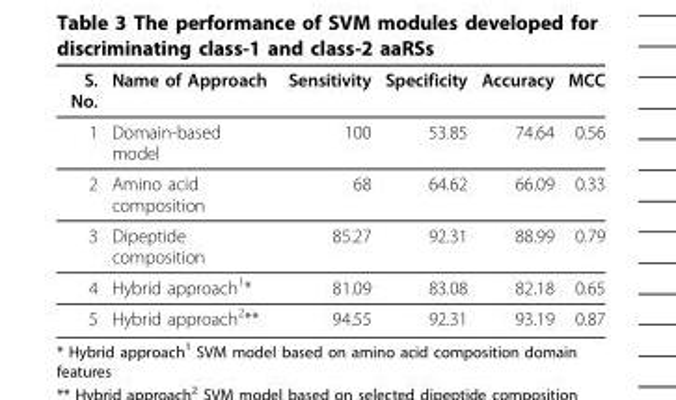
<table><thead><tr><td>S. No.</td><td>Name of Approach</td><td>Sensitivity</td><td>Specificity</td><td>Accuracy</td><td>MCC</td></tr></thead><tbody><tr><td>1</td><td>Domain-based model</td><td>100</td><td>53.85</td><td>74.64</td><td>0.56</td></tr><tr><td>2</td><td>Amino acid composition</td><td>68</td><td>64.62</td><td>66.09</td><td>0.33</td></tr><tr><td>3</td><td>Dipeptide composition</td><td>85.27</td><td>92.31</td><td>88.99</td><td>0.79</td></tr><tr><td>4</td><td>Hybrid approach<sup>1</sup>*</td><td>81.09</td><td>83.08</td><td>82.18</td><td>0.65</td></tr><tr><td>5</td><td>Hybrid approach<sup>2</sup>**</td><td>94.55</td><td>92.31</td><td>93.19</td><td>0.87</td></tr></tbody></table>